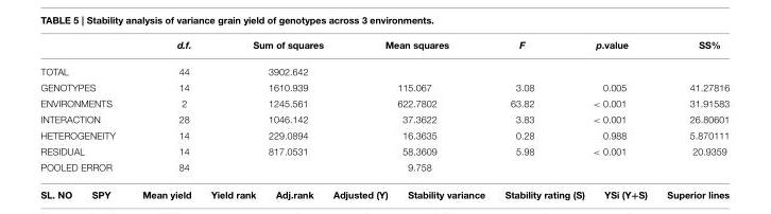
<table><thead><tr><td></td><td>d.f.</td><td>Sum of squares</td><td>Mean squares</td><td>F</td><td>p.value</td><td>SS%</td></tr></thead><tbody><tr><td>TOTAL</td><td>44</td><td>3902.642</td><td></td><td></td><td></td><td></td></tr><tr><td>GENOTYPES</td><td>14</td><td>1610.939</td><td>115.067</td><td>3.08</td><td>0.005</td><td>41.27816</td></tr><tr><td>ENVIRONMENTS</td><td>2</td><td>1245.561</td><td>622.7802</td><td>63.82</td><td>&lt; 0.001</td><td>31.91583</td></tr><tr><td>INTERACTION</td><td>28</td><td>1046.142</td><td>37.3622</td><td>3.83</td><td>&lt; 0.001</td><td>26.80601</td></tr><tr><td>HETEROGENEITY</td><td>14</td><td>229.0894</td><td>16.3635</td><td>0.28</td><td>0.988</td><td>5.870111</td></tr><tr><td>RESIDUAL</td><td>14</td><td>817.0531</td><td>58.3609</td><td>5.98</td><td>&lt; 0.001</td><td>20.9359</td></tr><tr><td>POOLED ERROR</td><td>84</td><td></td><td>9.758</td><td></td><td></td><td></td></tr></tbody></table>